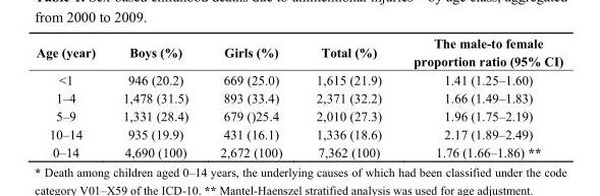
<table><thead><tr><td>Age (year)</td><td>Boys (%)</td><td>Girls (%)</td><td>Total (%)</td><td>The male-to female proportion ratio (95% CI)</td></tr></thead><tbody><tr><td>&lt;1</td><td>946 (20.2)</td><td>669 (25.0)</td><td>1,615 (21.9)</td><td>1.41 (1.25–1.60)</td></tr><tr><td>1–4</td><td>1,478 (31.5)</td><td>893 (33.4)</td><td>2,371 (32.2)</td><td>1.66 (1.49–1.83)</td></tr><tr><td>5–9</td><td>1,331 (28.4)</td><td>679 ()25.4</td><td>2,010 (27.3)</td><td>1.96 (1.75–2.19)</td></tr><tr><td>10–14</td><td>935 (19.9)</td><td>431 (16.1)</td><td>1,336 (18.6)</td><td>2.17 (1.89–2.49)</td></tr><tr><td>0–14</td><td>4,690 (100)</td><td>2,672 (100)</td><td>7,362 (100)</td><td>1.76 (1.66–1.86) **</td></tr></tbody></table>